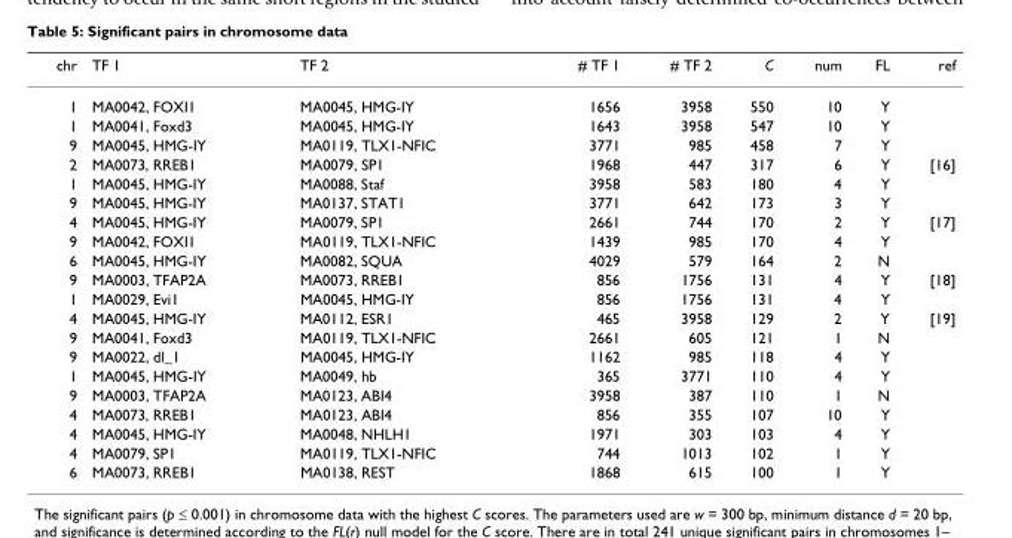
<table><thead><tr><td>chr</td><td>TF 1</td><td>TF 2</td><td># TF 1</td><td># TF 2</td><td>C</td><td>num</td><td>FL</td><td>ref</td></tr></thead><tbody><tr><td>1</td><td>MA0042, FOXI1</td><td>MA0045, HMG-IY</td><td>1656</td><td>3958</td><td>550</td><td>10</td><td>Y</td><td></td></tr><tr><td>1</td><td>MA0041, Foxd3</td><td>MA0045, HMG-IY</td><td>1643</td><td>3958</td><td>547</td><td>10</td><td>Y</td><td></td></tr><tr><td>9</td><td>MA0045, HMG-IY</td><td>MA0119, TLX1-NFIC</td><td>3771</td><td>985</td><td>458</td><td>7</td><td>Y</td><td></td></tr><tr><td>2</td><td>MA0073, RREB1</td><td>MA0079, SP1</td><td>1968</td><td>447</td><td>317</td><td>6</td><td>Y</td><td>[16]</td></tr><tr><td>1</td><td>MA0045, HMG-IY</td><td>MA0088, Staf</td><td>3958</td><td>583</td><td>180</td><td>4</td><td>Y</td><td></td></tr><tr><td>9</td><td>MA0045, HMG-IY</td><td>MA0137, STAT1</td><td>3771</td><td>642</td><td>173</td><td>3</td><td>Y</td><td></td></tr><tr><td>4</td><td>MA0045, HMG-IY</td><td>MA0079, SP1</td><td>2661</td><td>744</td><td>170</td><td>2</td><td>Y</td><td>[17]</td></tr><tr><td>9</td><td>MA0042, FOXI1</td><td>MA0119, TLX1-NFIC</td><td>1439</td><td>985</td><td>170</td><td>4</td><td>Y</td><td></td></tr><tr><td>6</td><td>MA0045, HMG-IY</td><td>MA0082, SQUA</td><td>4029</td><td>579</td><td>164</td><td>2</td><td>N</td><td></td></tr><tr><td>9</td><td>MA0003, TFAP2A</td><td>MA0073, RREB1</td><td>856</td><td>1756</td><td>131</td><td>4</td><td>Y</td><td>[18]</td></tr><tr><td>1</td><td>MA0029, Evi1</td><td>MA0045, HMG-IY</td><td>856</td><td>1756</td><td>131</td><td>4</td><td>Y</td><td></td></tr><tr><td>4</td><td>MA0045, HMG-IY</td><td>MA0112, ESR1</td><td>465</td><td>3958</td><td>129</td><td>2</td><td>Y</td><td>[19]</td></tr><tr><td>9</td><td>MA0041, Foxd3</td><td>MA0119, TLX1-NFIC</td><td>2661</td><td>605</td><td>121</td><td>1</td><td>N</td><td></td></tr><tr><td>9</td><td>MA0022, dl_1</td><td>MA0045, HMG-IY</td><td>1162</td><td>985</td><td>118</td><td>4</td><td>Y</td><td></td></tr><tr><td>1</td><td>MA0045, HMG-IY</td><td>MA0049, hb</td><td>365</td><td>3771</td><td>110</td><td>4</td><td>Y</td><td></td></tr><tr><td>9</td><td>MA0003, TFAP2A</td><td>MA0123, ABI4</td><td>3958</td><td>387</td><td>110</td><td>1</td><td>N</td><td></td></tr><tr><td>4</td><td>MA0073, RREB1</td><td>MA0123, ABI4</td><td>856</td><td>355</td><td>107</td><td>10</td><td>Y</td><td></td></tr><tr><td>4</td><td>MA0045, HMG-IY</td><td>MA0048, NHLH1</td><td>1971</td><td>303</td><td>103</td><td>4</td><td>Y</td><td></td></tr><tr><td>4</td><td>MA0079, SP1</td><td>MA0119, TLX1-NFIC</td><td>744</td><td>1013</td><td>102</td><td>1</td><td>Y</td><td></td></tr><tr><td>6</td><td>MA0073, RREB1</td><td>MA0138, REST</td><td>1868</td><td>615</td><td>100</td><td>1</td><td>Y</td><td></td></tr></tbody></table>